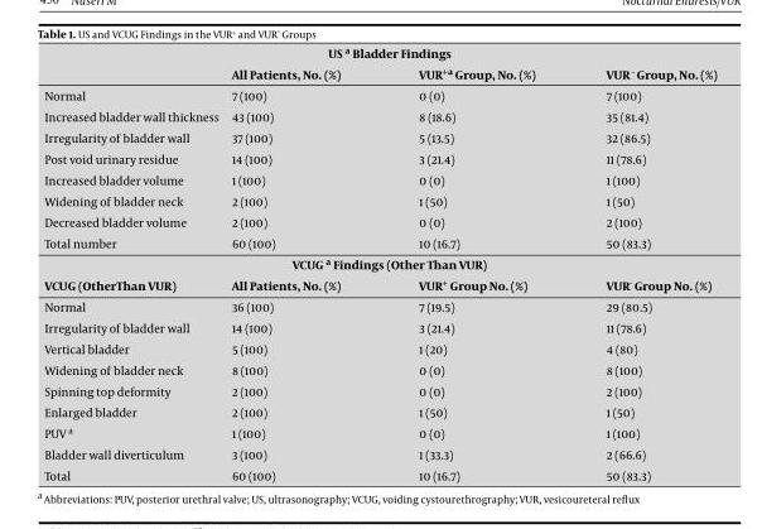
<table><thead><tr><td colspan="4">US <sup>a</sup> Bladder Findings</td></tr><tr><td></td><td>All Patients, No. (%)</td><td>VUR<sup>+a</sup> Group, No. (%)</td><td>VUR <sup>-</sup> Group, No. (%)</td></tr></thead><tbody><tr><td>Normal</td><td>7 (100)</td><td>0 (0)</td><td>7 (100)</td></tr><tr><td>Increased bladder wall thickness</td><td>43 (100)</td><td>8 (18.6)</td><td>35 (81.4)</td></tr><tr><td>Irregularity of bladder wall</td><td>37 (100)</td><td>5 (13.5)</td><td>32 (86.5)</td></tr><tr><td>Post void urinary residue</td><td>14 (100)</td><td>3 (21.4)</td><td>11 (78.6)</td></tr><tr><td>Increased bladder volume</td><td>1 (100)</td><td>0 (0)</td><td>1 (100)</td></tr><tr><td>Widening of bladder neck</td><td>2 (100)</td><td>1 (50)</td><td>1 (50)</td></tr><tr><td>Decreased bladder volume</td><td>2 (100)</td><td>0 (0)</td><td>2 (100)</td></tr><tr><td rowspan="2">Total number</td><td>60 (100)</td><td>10 (16.7)</td><td>50 (83.3)</td></tr><tr><td colspan="2">VCUG <sup>a</sup> Findings (Other Than VUR)</td><td></td></tr><tr><td>VCUG (OtherThan VUR)</td><td>All Patients, No. (%)</td><td>VUR<sup>+</sup> Group No. (%)</td><td>VUR<sup>-</sup> Group No. (%)</td></tr><tr><td>Normal</td><td>36 (100)</td><td>7 (19.5)</td><td>29 (80.5)</td></tr><tr><td>Irregularity of bladder wall</td><td>14 (100)</td><td>3 (21.4)</td><td>11 (78.6)</td></tr><tr><td>Vertical bladder</td><td>5 (100)</td><td>1 (20)</td><td>4 (80)</td></tr><tr><td>Widening of bladder neck</td><td>8 (100)</td><td>0 (0)</td><td>8 (100)</td></tr><tr><td>Spinning top deformity</td><td>2 (100)</td><td>0 (0)</td><td>2 (100)</td></tr><tr><td>Enlarged bladder</td><td>2 (100)</td><td>1 (50)</td><td>1 (50)</td></tr><tr><td>PUV <sup>a</sup></td><td>1 (100)</td><td>0 (0)</td><td>1 (100)</td></tr><tr><td>Bladder wall diverticulum</td><td>3 (100)</td><td>1 (33.3)</td><td>2 (66.6)</td></tr><tr><td>Total</td><td>60 (100)</td><td>10 (16.7)</td><td>50 (83.3)</td></tr></tbody></table>